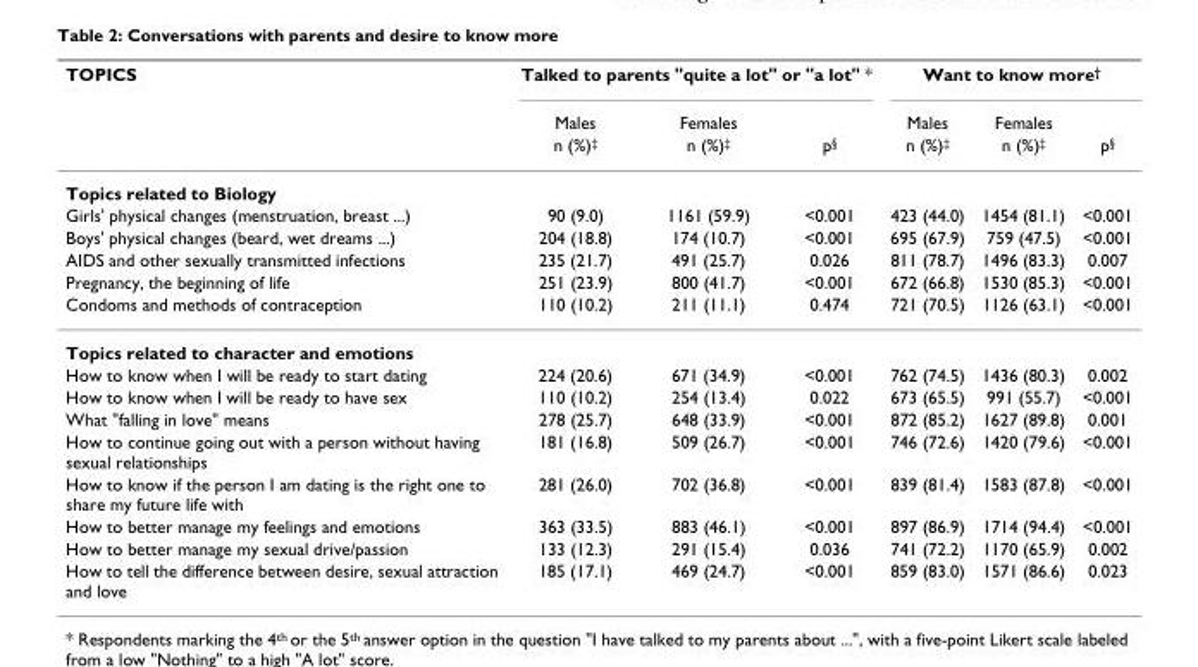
<table><thead><tr><td rowspan="3">TOPICS</td><td colspan="3">Talked to parents &quot;quite a lot&quot; or &quot;a lot&quot; *</td><td colspan="3">Want to know more<sup>†</sup></td></tr><tr><td rowspan="2">Males n (%)<sup>‡</sup></td><td rowspan="2">Females n (%)<sup>‡</sup></td><td rowspan="2">p<sup>§</sup></td><td rowspan="2">Males n (%)<sup>‡</sup></td><td rowspan="2">Females n (%)<sup>‡</sup></td><td rowspan="2">p<sup>§</sup></td></tr><tr></tr></thead><tbody><tr><td colspan="7">Topics related to Biology</td></tr><tr><td>Girls&#x27; physical changes (menstruation, breast ...)</td><td>90 (9.0)</td><td>1161 (59.9)</td><td>&lt;0.001</td><td>423 (44.0)</td><td>1454 (81.1)</td><td>&lt;0.001</td></tr><tr><td>Boys&#x27; physical changes (beard, wet dreams ...)</td><td>204 (18.8)</td><td>174 (10.7)</td><td>&lt;0.001</td><td>695 (67.9)</td><td>759 (47.5)</td><td>&lt;0.001</td></tr><tr><td>AIDS and other sexually transmitted infections</td><td>235 (21.7)</td><td>491 (25.7)</td><td>0.026</td><td>811 (78.7)</td><td>1496 (83.3)</td><td>0.007</td></tr><tr><td>Pregnancy, the beginning of life</td><td>251 (23.9)</td><td>800 (41.7)</td><td>&lt;0.001</td><td>672 (66.8)</td><td>1530 (85.3)</td><td>&lt;0.001</td></tr><tr><td>Condoms and methods of contraception</td><td>110 (10.2)</td><td>211 (11.1)</td><td>0.474</td><td>721 (70.5)</td><td>1126 (63.1)</td><td>&lt;0.001</td></tr><tr><td colspan="7">Topics related to character and emotions</td></tr><tr><td>How to know when I will be ready to start dating</td><td>224 (20.6)</td><td>671 (34.9)</td><td>&lt;0.001</td><td>762 (74.5)</td><td>1436 (80.3)</td><td>0.002</td></tr><tr><td>How to know when I will be ready to have sex</td><td>110 (10.2)</td><td>254 (13.4)</td><td>0.022</td><td>673 (65.5)</td><td>991 (55.7)</td><td>&lt;0.001</td></tr><tr><td>What &quot;falling in love&quot; means</td><td>278 (25.7)</td><td>648 (33.9)</td><td>&lt;0.001</td><td>872 (85.2)</td><td>1627 (89.8)</td><td>0.001</td></tr><tr><td>How to continue going out with a person without having sexual relationships</td><td>181 (16.8)</td><td>509 (26.7)</td><td>&lt;0.001</td><td>746 (72.6)</td><td>1420 (79.6)</td><td>&lt;0.001</td></tr><tr><td>How to know if the person I am dating is the right one to share my future life with</td><td>281 (26.0)</td><td>702 (36.8)</td><td>&lt;0.001</td><td>839 (81.4)</td><td>1583 (87.8)</td><td>&lt;0.001</td></tr><tr><td>How to better manage my feelings and emotions</td><td>363 (33.5)</td><td>883 (46.1)</td><td>&lt;0.001</td><td>897 (86.9)</td><td>1714 (94.4)</td><td>&lt;0.001</td></tr><tr><td>How to better manage my sexual drive/passion</td><td>133 (12.3)</td><td>291 (15.4)</td><td>0.036</td><td>741 (72.2)</td><td>1170 (65.9)</td><td>0.002</td></tr><tr><td>How to tell the difference between desire, sexual attraction and love</td><td>185 (17.1)</td><td>469 (24.7)</td><td>&lt;0.001</td><td>859 (83.0)</td><td>1571 (86.6)</td><td>0.023</td></tr></tbody></table>